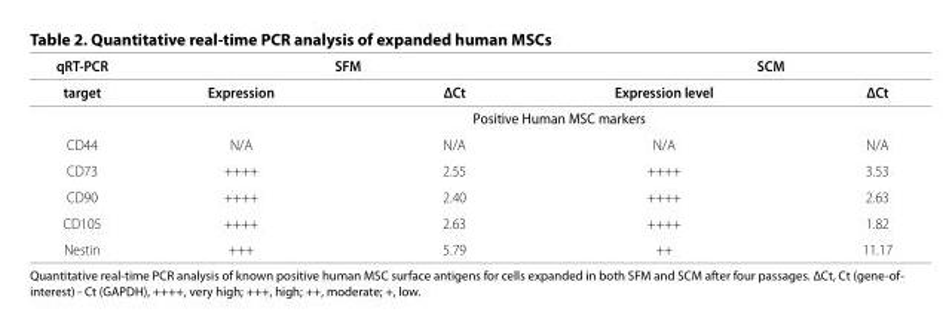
<table><thead><tr><td rowspan="2">qRT-PCR target</td><td colspan="2">SFM</td><td colspan="2">SCM</td></tr><tr><td>Expression</td><td>ΔCt</td><td>Expression level</td><td>ΔCt</td></tr></thead><tbody><tr><td colspan="5">Positive Human MSC markers</td></tr><tr><td>CD44</td><td>N/A</td><td>N/A</td><td>N/A</td><td>N/A</td></tr><tr><td>CD73</td><td>++++</td><td>2.55</td><td>++++</td><td>3.53</td></tr><tr><td>CD90</td><td>++++</td><td>2.40</td><td>++++</td><td>2.63</td></tr><tr><td>CD105</td><td>++++</td><td>2.63</td><td>++++</td><td>1.82</td></tr><tr><td>Nestin</td><td>+++</td><td>5.79</td><td>++</td><td>11.17</td></tr></tbody></table>